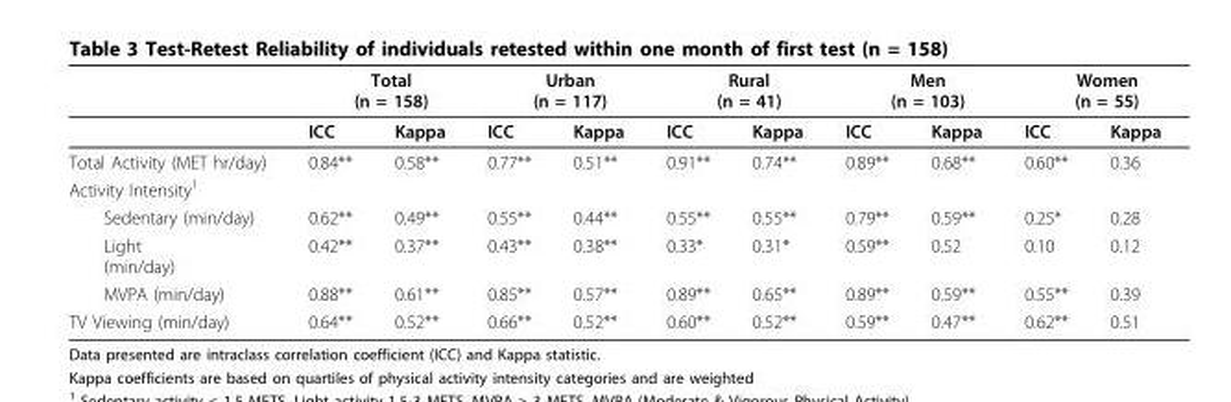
<table><thead><tr><td rowspan="2"></td><td colspan="2">Total (n = 158)</td><td colspan="2">Urban (n = 117)</td><td colspan="2">Rural (n = 41)</td><td colspan="2">Men (n = 103)</td><td colspan="2">Women (n = 55)</td></tr><tr><td>ICC</td><td>Kappa</td><td>ICC</td><td>Kappa</td><td>ICC</td><td>Kappa</td><td>ICC</td><td>Kappa</td><td>ICC</td><td>Kappa</td></tr></thead><tbody><tr><td>Total Activity (MET hr/day)</td><td>0.84**</td><td>0.58**</td><td>0.77**</td><td>0.51**</td><td>0.91**</td><td>0.74**</td><td>0.89**</td><td>0.68**</td><td>0.60**</td><td>0.36</td></tr><tr><td colspan="11">Activity Intensity<sup>1</sup></td></tr><tr><td>Sedentary (min/day)</td><td>0.62**</td><td>0.49**</td><td>0.55**</td><td>0.44**</td><td>0.55**</td><td>0.55**</td><td>0.79**</td><td>0.59**</td><td>0.25*</td><td>0.28</td></tr><tr><td>Light (min/day)</td><td>0.42**</td><td>0.37**</td><td>0.43**</td><td>0.38**</td><td>0.33*</td><td>0.31*</td><td>0.59**</td><td>0.52</td><td>0.10</td><td>0.12</td></tr><tr><td>MVPA (min/day)</td><td>0.88**</td><td>0.61**</td><td>0.85**</td><td>0.57**</td><td>0.89**</td><td>0.65**</td><td>0.89**</td><td>0.59**</td><td>0.55**</td><td>0.39</td></tr><tr><td>TV Viewing (min/day)</td><td>0.64**</td><td>0.52**</td><td>0.66**</td><td>0.52**</td><td>0.60**</td><td>0.52**</td><td>0.59**</td><td>0.47**</td><td>0.62**</td><td>0.51</td></tr></tbody></table>